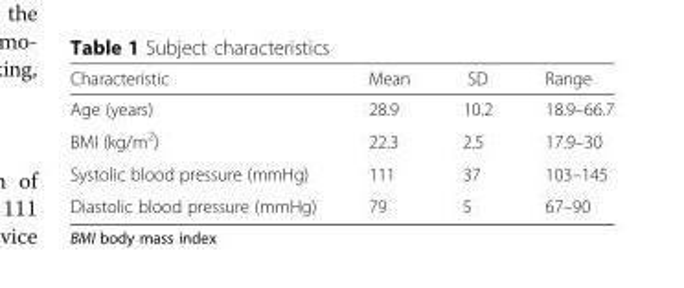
<table><thead><tr><td>Characteristic</td><td>Mean</td><td>SD</td><td>Range</td></tr></thead><tbody><tr><td>Age (years)</td><td>28.9</td><td>10.2</td><td>18.9–66.7</td></tr><tr><td>BMI (kg/m<sup>2</sup>)</td><td>22.3</td><td>2.5</td><td>17.9–30</td></tr><tr><td>Systolic blood pressure (mmHg)</td><td>111</td><td>37</td><td>103–145</td></tr><tr><td>Diastolic blood pressure (mmHg)</td><td>79</td><td>5</td><td>67–90</td></tr></tbody></table>